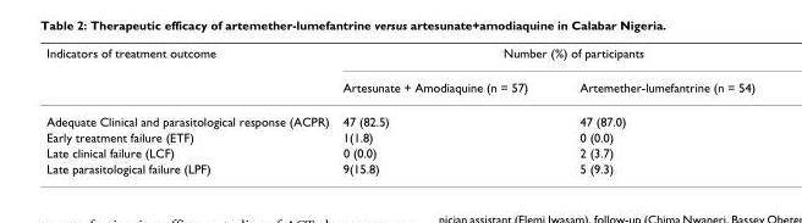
<table><thead><tr><td rowspan="2">Indicators of treatment outcome</td><td colspan="2">Number (%) of participants</td></tr><tr><td>Artesunate + Amodiaquine (n = 57)</td><td>Artemether-lumefantrine (n = 54)</td></tr></thead><tbody><tr><td>Adequate Clinical and parasitological response (ACPR)</td><td>47 (82.5)</td><td>47 (87.0)</td></tr><tr><td>Early treatment failure (ETF)</td><td>1(1.8)</td><td>0 (0.0)</td></tr><tr><td>Late clinical failure (LCF)</td><td>0 (0.0)</td><td>2 (3.7)</td></tr><tr><td>Late parasitological failure (LPF)</td><td>9(15.8)</td><td>5 (9.3)</td></tr></tbody></table>